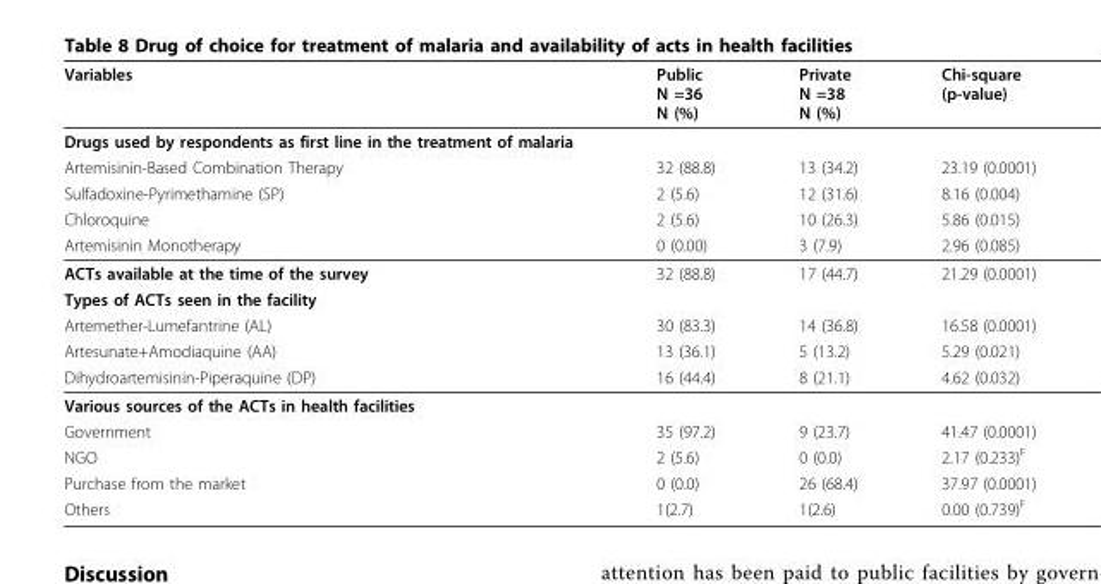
<table><thead><tr><td>Variables</td><td>Public N =36 N (%)</td><td>Private N =38 N (%)</td><td>Chi-square (p-value)</td></tr></thead><tbody><tr><td colspan="4">Drugs used by respondents as first line in the treatment of malaria</td></tr><tr><td>Artemisinin-Based Combination Therapy</td><td>32 (88.8)</td><td>13 (34.2)</td><td>23.19 (0.0001)</td></tr><tr><td>Sulfadoxine-Pyrimethamine (SP)</td><td>2 (5.6)</td><td>12 (31.6)</td><td>8.16 (0.004)</td></tr><tr><td>Chloroquine</td><td>2 (5.6)</td><td>10 (26.3)</td><td>5.86 (0.015)</td></tr><tr><td>Artemisinin Monotherapy</td><td>0 (0.00)</td><td>3 (7.9)</td><td>2.96 (0.085)</td></tr><tr><td>ACTs available at the time of the survey</td><td>32 (88.8)</td><td>17 (44.7)</td><td>21.29 (0.0001)</td></tr><tr><td colspan="4">Types of ACTs seen in the facility</td></tr><tr><td>Artemether-Lumefantrine (AL)</td><td>30 (83.3)</td><td>14 (36.8)</td><td>16.58 (0.0001)</td></tr><tr><td>Artesunate+Amodiaquine (AA)</td><td>13 (36.1)</td><td>5 (13.2)</td><td>5.29 (0.021)</td></tr><tr><td>Dihydroartemisinin-Piperaquine (DP)</td><td>16 (44.4)</td><td>8 (21.1)</td><td>4.62 (0.032)</td></tr><tr><td colspan="4">Various sources of the ACTs in health facilities</td></tr><tr><td>Government</td><td>35 (97.2)</td><td>9 (23.7)</td><td>41.47 (0.0001)</td></tr><tr><td>NGO</td><td>2 (5.6)</td><td>0 (0.0)</td><td>2.17 (0.233)<sup>F</sup></td></tr><tr><td>Purchase from the market</td><td>0 (0.0)</td><td>26 (68.4)</td><td>37.97 (0.0001)</td></tr><tr><td>Others</td><td>1(2.7)</td><td>1(2.6)</td><td>0.00 (0.739)<sup>F</sup></td></tr></tbody></table>